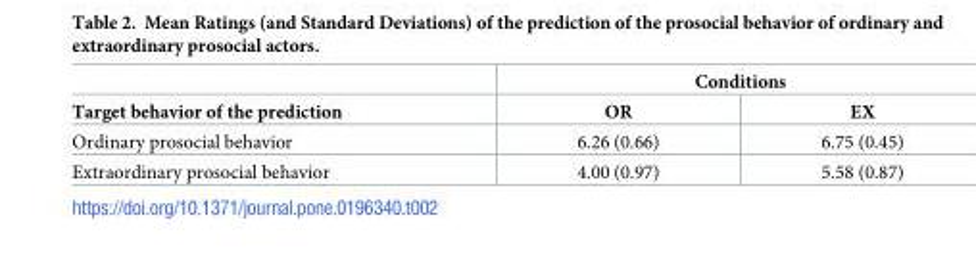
<table><thead><tr><td rowspan="2">Target behavior of the prediction</td><td colspan="2">Conditions</td></tr><tr><td>OR</td><td>EX</td></tr></thead><tbody><tr><td>Ordinary prosocial behavior</td><td>6.26 (0.66)</td><td>6.75 (0.45)</td></tr><tr><td>Extraordinary prosocial behavior</td><td>4.00 (0.97)</td><td>5.58 (0.87)</td></tr></tbody></table>